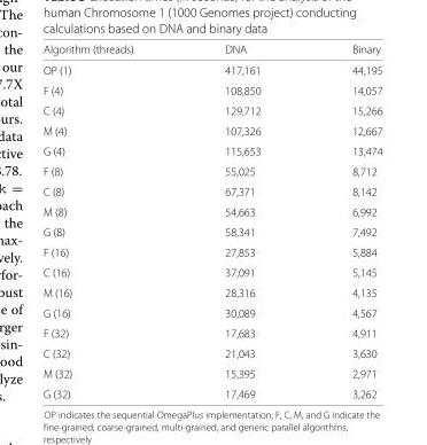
<table><thead><tr><td>Algorithm (threads)</td><td>DNA</td><td>Binary</td></tr></thead><tbody><tr><td>OP (1)</td><td>417,161</td><td>44,195</td></tr><tr><td>F (4)</td><td>108,850</td><td>14,057</td></tr><tr><td>C (4)</td><td>129,712</td><td>15,266</td></tr><tr><td>M (4)</td><td>107,326</td><td>12,667</td></tr><tr><td>G (4)</td><td>115,653</td><td>13,474</td></tr><tr><td>F (8)</td><td>55,025</td><td>8,712</td></tr><tr><td>C (8)</td><td>67,371</td><td>8,142</td></tr><tr><td>M (8)</td><td>54,663</td><td>6,992</td></tr><tr><td>G (8)</td><td>58,341</td><td>7,492</td></tr><tr><td>F (16)</td><td>27,853</td><td>5,884</td></tr><tr><td>C (16)</td><td>37,091</td><td>5,145</td></tr><tr><td>M (16)</td><td>28,316</td><td>4,135</td></tr><tr><td>G (16)</td><td>30,089</td><td>4,567</td></tr><tr><td>F (32)</td><td>17,683</td><td>4,911</td></tr><tr><td>C (32)</td><td>21,043</td><td>3,630</td></tr><tr><td>M (32)</td><td>15,395</td><td>2,971</td></tr><tr><td>G (32)</td><td>17,469</td><td>3,262</td></tr></tbody></table>